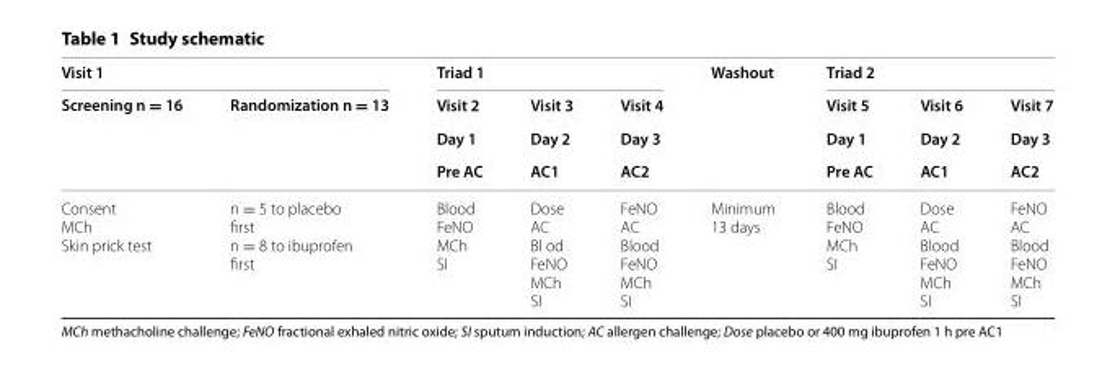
<table><thead><tr><td colspan="2">Visit 1</td><td colspan="3">Triad 1</td><td rowspan="4">Washout</td><td colspan="3">Triad 2</td></tr><tr><td rowspan="3">Screening n = 16</td><td rowspan="3">Randomization n = 13</td><td rowspan="3">Visit 2 Day 1 Pre AC</td><td rowspan="3">Visit 3 Day 2 AC1</td><td rowspan="3">Visit 4 Day 3 AC2</td><td rowspan="3">Visit 5 Day 1 Pre AC</td><td rowspan="3">Visit 6 Day 2 AC1</td><td rowspan="3">Visit 7 Day 3 AC2</td></tr><tr></tr><tr></tr></thead><tbody><tr><td>Consent MCh Skin prick test</td><td>n = 5 to placebo first n = 8 to ibuprofen first</td><td>Blood FeNO MCh SI</td><td>Dose AC Bl od FeNO MCh SI</td><td>FeNO AC Blood FeNO MCh SI</td><td>Minimum 13 days</td><td>Blood FeNO MCh SI</td><td>Dose AC Blood FeNO MCh SI</td><td>FeNO AC Blood FeNO MCh SI</td></tr></tbody></table>